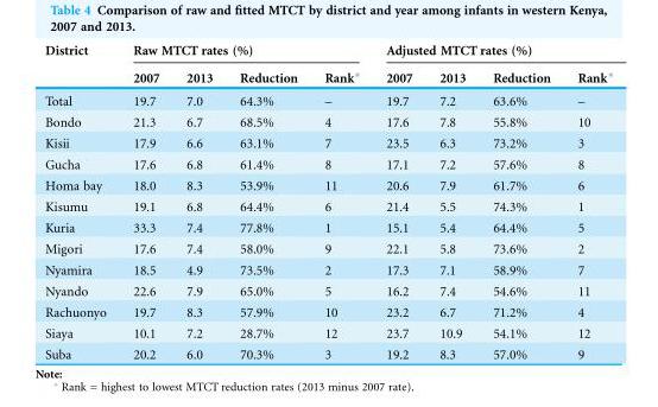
<table><thead><tr><td rowspan="2">District</td><td colspan="4">Raw MTCT rates (%)</td><td colspan="4">Adjusted MTCT rates (%)</td></tr><tr><td>2007</td><td>2013</td><td>Reduction</td><td>Rank*</td><td>2007</td><td>2013</td><td>Reduction</td><td>Rank*</td></tr></thead><tbody><tr><td>Total</td><td>19.7</td><td>7.0</td><td>64.3%</td><td>–</td><td>19.7</td><td>7.2</td><td>63.6%</td><td>–</td></tr><tr><td>Bondo</td><td>21.3</td><td>6.7</td><td>68.5%</td><td>4</td><td>17.6</td><td>7.8</td><td>55.8%</td><td>10</td></tr><tr><td>Kisii</td><td>17.9</td><td>6.6</td><td>63.1%</td><td>7</td><td>23.5</td><td>6.3</td><td>73.2%</td><td>3</td></tr><tr><td>Gucha</td><td>17.6</td><td>6.8</td><td>61.4%</td><td>8</td><td>17.1</td><td>7.2</td><td>57.6%</td><td>8</td></tr><tr><td>Homa bay</td><td>18.0</td><td>8.3</td><td>53.9%</td><td>11</td><td>20.6</td><td>7.9</td><td>61.7%</td><td>6</td></tr><tr><td>Kisumu</td><td>19.1</td><td>6.8</td><td>64.4%</td><td>6</td><td>21.4</td><td>5.5</td><td>74.3%</td><td>1</td></tr><tr><td>Kuria</td><td>33.3</td><td>7.4</td><td>77.8%</td><td>1</td><td>15.1</td><td>5.4</td><td>64.4%</td><td>5</td></tr><tr><td>Migori</td><td>17.6</td><td>7.4</td><td>58.0%</td><td>9</td><td>22.1</td><td>5.8</td><td>73.6%</td><td>2</td></tr><tr><td>Nyamira</td><td>18.5</td><td>4.9</td><td>73.5%</td><td>2</td><td>17.3</td><td>7.1</td><td>58.9%</td><td>7</td></tr><tr><td>Nyando</td><td>22.6</td><td>7.9</td><td>65.0%</td><td>5</td><td>16.2</td><td>7.4</td><td>54.6%</td><td>11</td></tr><tr><td>Rachuonyo</td><td>19.7</td><td>8.3</td><td>57.9%</td><td>10</td><td>23.2</td><td>6.7</td><td>71.2%</td><td>4</td></tr><tr><td>Siaya</td><td>10.1</td><td>7.2</td><td>28.7%</td><td>12</td><td>23.7</td><td>10.9</td><td>54.1%</td><td>12</td></tr><tr><td>Suba</td><td>20.2</td><td>6.0</td><td>70.3%</td><td>3</td><td>19.2</td><td>8.3</td><td>57.0%</td><td>9</td></tr></tbody></table>